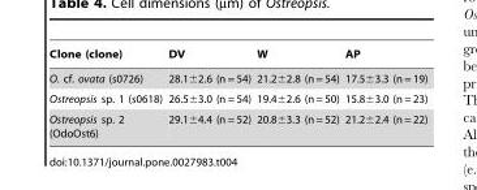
<table><thead><tr><td>Clone (clone)</td><td>DV</td><td>W</td><td>AP</td></tr></thead><tbody><tr><td>O. cf. ovata (s0726)</td><td>28.1±2.6 (n = 54)</td><td>21.2±2.8 (n = 54)</td><td>17.5±3.3 (n = 19)</td></tr><tr><td>Ostreopsis sp. 1 (s0618)</td><td>26.5±3.0 (n = 54)</td><td>19.4±2.6 (n = 50)</td><td>15.8±3.0 (n = 23)</td></tr><tr><td>Ostreopsis sp. 2 (OdoOst6)</td><td>29.1±4.4 (n = 52)</td><td>20.8±3.3 (n = 52)</td><td>21.2±2.4 (n = 22)</td></tr></tbody></table>